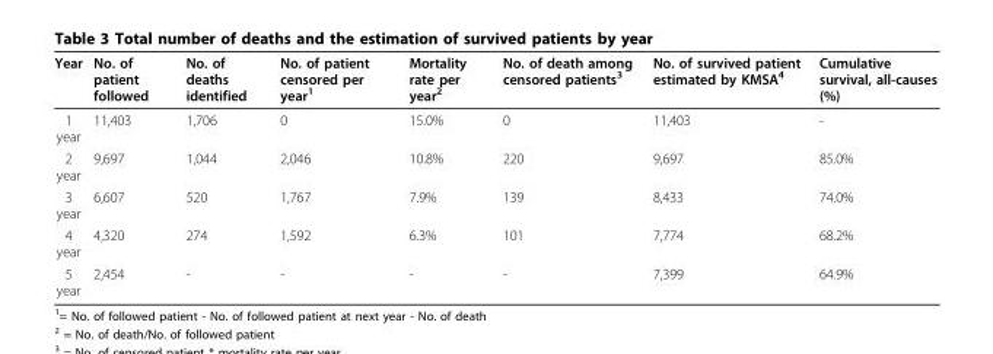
<table><thead><tr><td>Year</td><td>No. of patient followed</td><td>No. of deaths identified</td><td>No. of patient censored per year<sup>1</sup></td><td>Mortality rate per year<sup>2</sup></td><td>No. of death among censored patients<sup>3</sup></td><td>No. of survived patient estimated by KMSA<sup>4</sup></td><td>Cumulative survival, all-causes (%)</td></tr></thead><tbody><tr><td>1 year</td><td>11,403</td><td>1,706</td><td>0</td><td>15.0%</td><td>0</td><td>11,403</td><td>-</td></tr><tr><td>2 year</td><td>9,697</td><td>1,044</td><td>2,046</td><td>10.8%</td><td>220</td><td>9,697</td><td>85.0%</td></tr><tr><td>3 year</td><td>6,607</td><td>520</td><td>1,767</td><td>7.9%</td><td>139</td><td>8,433</td><td>74.0%</td></tr><tr><td>4 year</td><td>4,320</td><td>274</td><td>1,592</td><td>6.3%</td><td>101</td><td>7,774</td><td>68.2%</td></tr><tr><td>5 year</td><td>2,454</td><td>-</td><td>-</td><td>-</td><td>-</td><td>7,399</td><td>64.9%</td></tr></tbody></table>